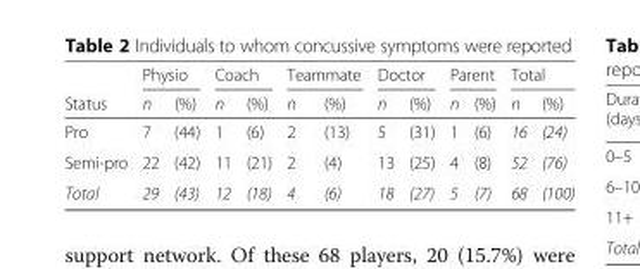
<table><thead><tr><td rowspan="2">Status</td><td colspan="2">Physio</td><td colspan="2">Coach</td><td colspan="2">Teammate</td><td colspan="2">Doctor</td><td colspan="2">Parent</td><td colspan="2">Total</td></tr><tr><td>n</td><td>(%)</td><td>n</td><td>(%)</td><td>n</td><td>(%)</td><td>n</td><td>(%)</td><td>n</td><td>(%)</td><td>n</td><td>(%)</td></tr></thead><tbody><tr><td>Pro</td><td>7</td><td>(44)</td><td>1</td><td>(6)</td><td>2</td><td>(13)</td><td>5</td><td>(31)</td><td>1</td><td>(6)</td><td>16</td><td>(24)</td></tr><tr><td>Semi-pro</td><td>22</td><td>(42)</td><td>11</td><td>(21)</td><td>2</td><td>(4)</td><td>13</td><td>(25)</td><td>4</td><td>(8)</td><td>52</td><td>(76)</td></tr><tr><td>Total</td><td>29</td><td>(43)</td><td>12</td><td>(18)</td><td>4</td><td>(6)</td><td>18</td><td>(27)</td><td>5</td><td>(7)</td><td>68</td><td>(100)</td></tr></tbody></table>